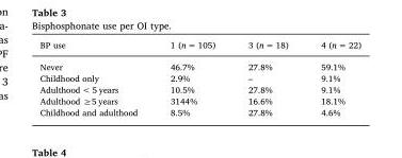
<table><thead><tr><td>BP use</td><td>1 (n = 105)</td><td>3 (n = 18)</td><td>4 (n = 22)</td></tr></thead><tbody><tr><td>Never</td><td>46.7%</td><td>27.8%</td><td>59.1%</td></tr><tr><td>Childhood only</td><td>2.9%</td><td>–</td><td>9.1%</td></tr><tr><td>Adulthood &lt; 5 years</td><td>10.5%</td><td>27.8%</td><td>9.1%</td></tr><tr><td>Adulthood ≥5 years</td><td>3144%</td><td>16.6%</td><td>18.1%</td></tr><tr><td>Childhood and adulthood</td><td>8.5%</td><td>27.8%</td><td>4.6%</td></tr></tbody></table>